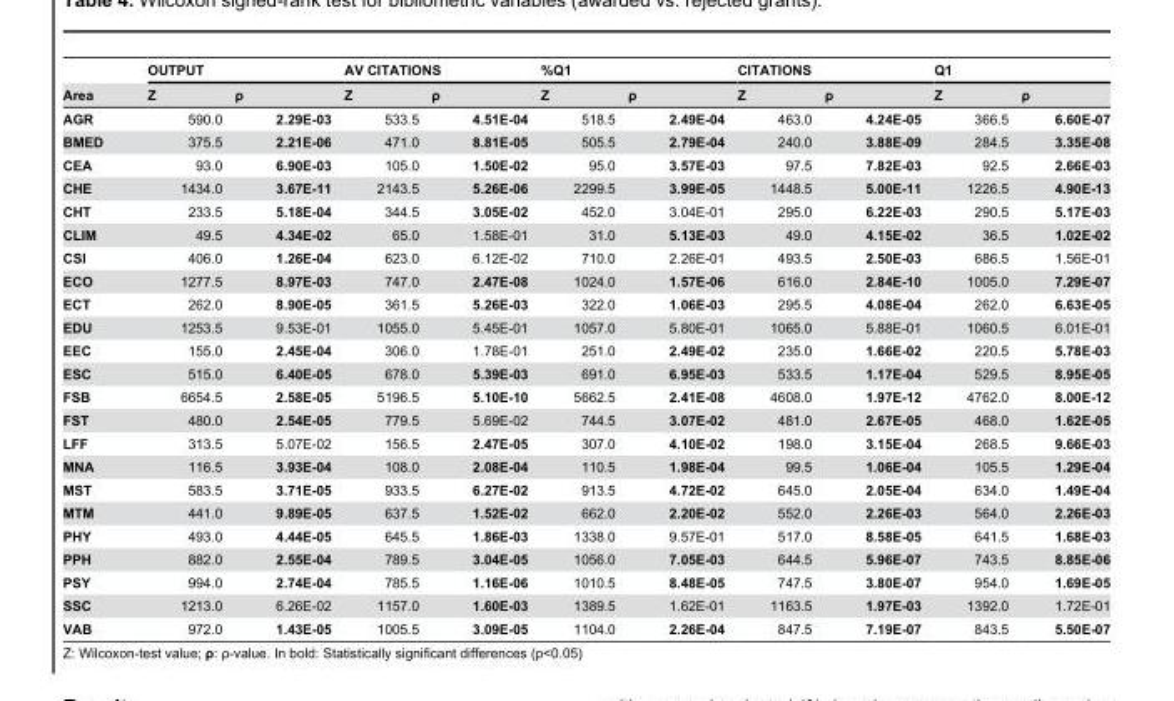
<table><thead><tr><td rowspan="2">Area</td><td colspan="2">OUTPUT</td><td colspan="2">AV CITATIONS</td><td colspan="2">%Q1</td><td colspan="2">CITATIONS</td><td colspan="2">Q1</td></tr><tr><td>Z</td><td>ρ</td><td>Z</td><td>ρ</td><td>Z</td><td>ρ</td><td>Z</td><td>ρ</td><td>Z</td><td>ρ</td></tr></thead><tbody><tr><td>AGR</td><td>590.0</td><td>2.29E-03</td><td>533.5</td><td>4.51E-04</td><td>518.5</td><td>2.49E-04</td><td>463.0</td><td>4.24E-05</td><td>366.5</td><td>6.60E-07</td></tr><tr><td>BMED</td><td>375.5</td><td>2.21E-06</td><td>471.0</td><td>8.81E-05</td><td>505.5</td><td>2.79E-04</td><td>240.0</td><td>3.88E-09</td><td>284.5</td><td>3.35E-08</td></tr><tr><td>CEA</td><td>93.0</td><td>6.90E-03</td><td>105.0</td><td>1.50E-02</td><td>95.0</td><td>3.57E-03</td><td>97.5</td><td>7.82E-03</td><td>92.5</td><td>2.66E-03</td></tr><tr><td>CHE</td><td>1434.0</td><td>3.67E-11</td><td>2143.5</td><td>5.26E-06</td><td>2299.5</td><td>3.99E-05</td><td>1448.5</td><td>5.00E-11</td><td>1226.5</td><td>4.90E-13</td></tr><tr><td>CHT</td><td>233.5</td><td>5.18E-04</td><td>344.5</td><td>3.05E-02</td><td>452.0</td><td>3.04E-01</td><td>295.0</td><td>6.22E-03</td><td>290.5</td><td>5.17E-03</td></tr><tr><td>CLIM</td><td>49.5</td><td>4.34E-02</td><td>65.0</td><td>1.58E-01</td><td>31.0</td><td>5.13E-03</td><td>49.0</td><td>4.15E-02</td><td>36.5</td><td>1.02E-02</td></tr><tr><td>CSI</td><td>406.0</td><td>1.26E-04</td><td>623.0</td><td>6.12E-02</td><td>710.0</td><td>2.26E-01</td><td>493.5</td><td>2.50E-03</td><td>686.5</td><td>1.56E-01</td></tr><tr><td>ECO</td><td>1277.5</td><td>8.97E-03</td><td>747.0</td><td>2.47E-08</td><td>1024.0</td><td>1.57E-06</td><td>616.0</td><td>2.84E-10</td><td>1005.0</td><td>7.29E-07</td></tr><tr><td>ECT</td><td>262.0</td><td>8.90E-05</td><td>361.5</td><td>5.26E-03</td><td>322.0</td><td>1.06E-03</td><td>295.5</td><td>4.08E-04</td><td>262.0</td><td>6.63E-05</td></tr><tr><td>EDU</td><td>1253.5</td><td>9.53E-01</td><td>1055.0</td><td>5.45E-01</td><td>1057.0</td><td>5.80E-01</td><td>1065.0</td><td>5.88E-01</td><td>1060.5</td><td>6.01E-01</td></tr><tr><td>EEC</td><td>155.0</td><td>2.45E-04</td><td>306.0</td><td>1.78E-01</td><td>251.0</td><td>2.49E-02</td><td>235.0</td><td>1.66E-02</td><td>220.5</td><td>5.78E-03</td></tr><tr><td>ESC</td><td>515.0</td><td>6.40E-05</td><td>678.0</td><td>5.39E-03</td><td>691.0</td><td>6.95E-03</td><td>533.5</td><td>1.17E-04</td><td>529.5</td><td>8.95E-05</td></tr><tr><td>FSB</td><td>6654.5</td><td>2.58E-05</td><td>5196.5</td><td>5.10E-10</td><td>5662.5</td><td>2.41E-08</td><td>4608.0</td><td>1.97E-12</td><td>4762.0</td><td>8.00E-12</td></tr><tr><td>FST</td><td>480.0</td><td>2.54E-05</td><td>779.5</td><td>5.69E-02</td><td>744.5</td><td>3.07E-02</td><td>481.0</td><td>2.67E-05</td><td>468.0</td><td>1.62E-05</td></tr><tr><td>LFF</td><td>313.5</td><td>5.07E-02</td><td>156.5</td><td>2.47E-05</td><td>307.0</td><td>4.10E-02</td><td>198.0</td><td>3.15E-04</td><td>268.5</td><td>9.66E-03</td></tr><tr><td>MNA</td><td>116.5</td><td>3.93E-04</td><td>108.0</td><td>2.08E-04</td><td>110.5</td><td>1.98E-04</td><td>99.5</td><td>1.06E-04</td><td>105.5</td><td>1.29E-04</td></tr><tr><td>MST</td><td>583.5</td><td>3.71E-05</td><td>933.5</td><td>6.27E-02</td><td>913.5</td><td>4.72E-02</td><td>645.0</td><td>2.05E-04</td><td>634.0</td><td>1.49E-04</td></tr><tr><td>MTM</td><td>441.0</td><td>9.89E-05</td><td>637.5</td><td>1.52E-02</td><td>662.0</td><td>2.20E-02</td><td>552.0</td><td>2.26E-03</td><td>564.0</td><td>2.26E-03</td></tr><tr><td>PHY</td><td>493.0</td><td>4.44E-05</td><td>645.5</td><td>1.86E-03</td><td>1338.0</td><td>9.57E-01</td><td>517.0</td><td>8.58E-05</td><td>641.5</td><td>1.68E-03</td></tr><tr><td>PPH</td><td>882.0</td><td>2.55E-04</td><td>789.5</td><td>3.04E-05</td><td>1056.0</td><td>7.05E-03</td><td>644.5</td><td>5.96E-07</td><td>743.5</td><td>8.85E-06</td></tr><tr><td>PSY</td><td>994.0</td><td>2.74E-04</td><td>785.5</td><td>1.16E-06</td><td>1010.5</td><td>8.48E-05</td><td>747.5</td><td>3.80E-07</td><td>954.0</td><td>1.69E-05</td></tr><tr><td>SSC</td><td>1213.0</td><td>6.26E-02</td><td>1157.0</td><td>1.60E-03</td><td>1389.5</td><td>1.62E-01</td><td>1163.5</td><td>1.97E-03</td><td>1392.0</td><td>1.72E-01</td></tr><tr><td>VAB</td><td>972.0</td><td>1.43E-05</td><td>1005.5</td><td>3.09E-05</td><td>1104.0</td><td>2.26E-04</td><td>847.5</td><td>7.19E-07</td><td>843.5</td><td>5.50E-07</td></tr></tbody></table>